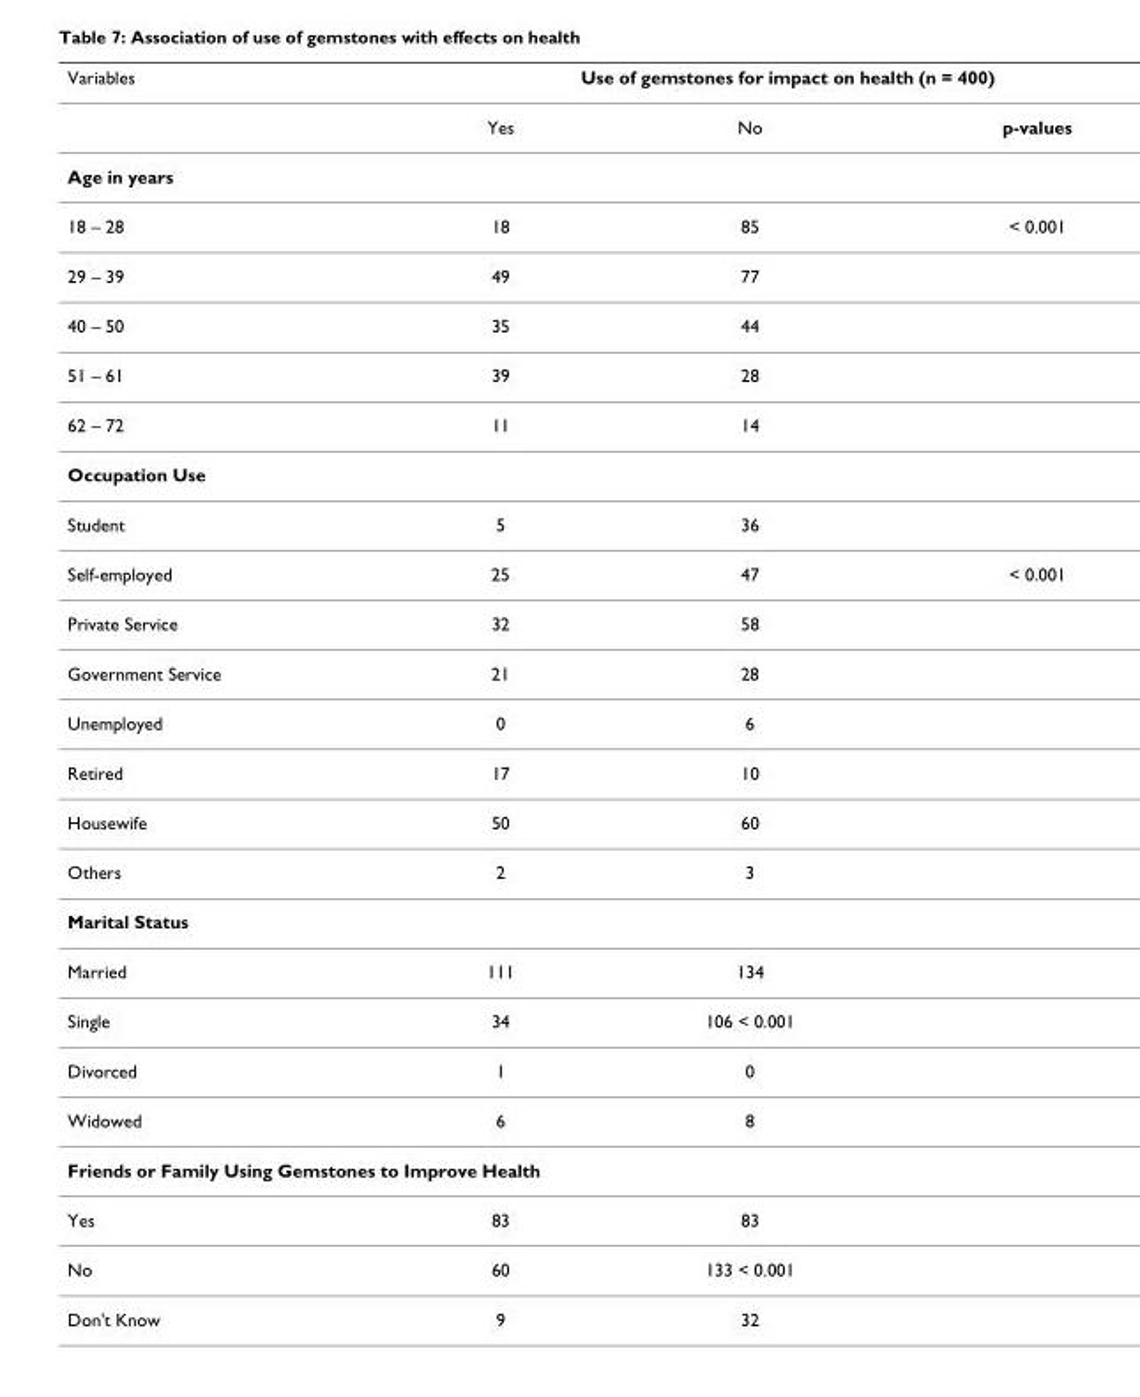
<table><thead><tr><td rowspan="2">Variables</td><td colspan="3">Use of gemstones for impact on health (n = 400)</td></tr><tr><td>Yes</td><td>No</td><td>p-values</td></tr></thead><tbody><tr><td colspan="4">Age in years</td></tr><tr><td>18 – 28</td><td>18</td><td>85</td><td>&lt; 0.001</td></tr><tr><td>29 – 39</td><td>49</td><td>77</td><td></td></tr><tr><td>40 – 50</td><td>35</td><td>44</td><td></td></tr><tr><td>51 – 61</td><td>39</td><td>28</td><td></td></tr><tr><td>62 – 72</td><td>11</td><td>14</td><td></td></tr><tr><td colspan="4">Occupation Use</td></tr><tr><td>Student</td><td>5</td><td>36</td><td></td></tr><tr><td>Self-employed</td><td>25</td><td>47</td><td>&lt; 0.001</td></tr><tr><td>Private Service</td><td>32</td><td>58</td><td></td></tr><tr><td>Government Service</td><td>21</td><td>28</td><td></td></tr><tr><td>Unemployed</td><td>0</td><td>6</td><td></td></tr><tr><td>Retired</td><td>17</td><td>10</td><td></td></tr><tr><td>Housewife</td><td>50</td><td>60</td><td></td></tr><tr><td>Others</td><td>2</td><td>3</td><td></td></tr><tr><td colspan="4">Marital Status</td></tr><tr><td>Married</td><td>111</td><td>134</td><td></td></tr><tr><td>Single</td><td>34</td><td>106 &lt; 0.001</td><td></td></tr><tr><td>Divorced</td><td>1</td><td>0</td><td></td></tr><tr><td>Widowed</td><td>6</td><td>8</td><td></td></tr><tr><td colspan="4">Friends or Family Using Gemstones to Improve Health</td></tr><tr><td>Yes</td><td>83</td><td>83</td><td></td></tr><tr><td>No</td><td>60</td><td>133 &lt; 0.001</td><td></td></tr><tr><td>Don&#x27;t Know</td><td>9</td><td>32</td><td></td></tr></tbody></table>